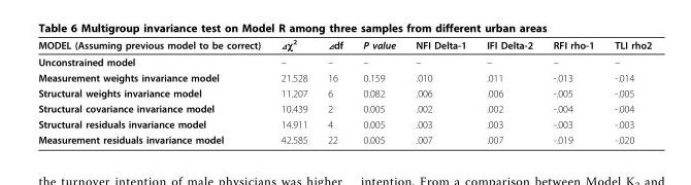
<table><thead><tr><td>MODEL (Assuming previous model to be correct)</td><td>⊿χ<sup>2</sup></td><td>⊿df</td><td>P value</td><td>NFI Delta-1</td><td>IFI Delta-2</td><td>RFI rho-1</td><td>TLI rho2</td></tr></thead><tbody><tr><td>Unconstrained model</td><td>–</td><td>–</td><td>–</td><td>–</td><td>–</td><td>–</td><td>–</td></tr><tr><td>Measurement weights invariance model</td><td>21.528</td><td>16</td><td>0.159</td><td>.010</td><td>.011</td><td>-.013</td><td>-.014</td></tr><tr><td>Structural weights invariance model</td><td>11.207</td><td>6</td><td>0.082</td><td>.006</td><td>.006</td><td>-.005</td><td>-.005</td></tr><tr><td>Structural covariance invariance model</td><td>10.439</td><td>2</td><td>0.005</td><td>.002</td><td>.002</td><td>-.004</td><td>-.004</td></tr><tr><td>Structural residuals invariance model</td><td>14.911</td><td>4</td><td>0.005</td><td>.003</td><td>.003</td><td>-.003</td><td>-.003</td></tr><tr><td>Measurement residuals invariance model</td><td>42.585</td><td>22</td><td>0.005</td><td>.007</td><td>.007</td><td>-.019</td><td>-.020</td></tr></tbody></table>